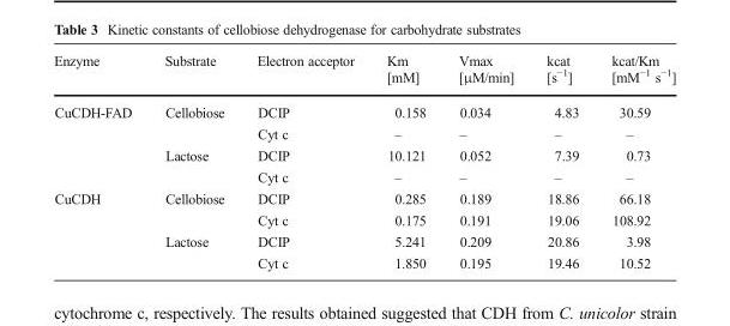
<table><thead><tr><td>Enzyme</td><td>Substrate</td><td>Electron acceptor</td><td>Km [mM]</td><td>Vmax [μM/min]</td><td>kcat [s<sup>−1</sup>]</td><td>kcat/Km [mM<sup>−1</sup> s<sup>−1</sup>]</td></tr></thead><tbody><tr><td rowspan="4">CuCDH-FAD</td><td rowspan="2">Cellobiose</td><td>DCIP</td><td>0.158</td><td>0.034</td><td>4.83</td><td>30.59</td></tr><tr><td>Cyt c</td><td>–</td><td>–</td><td>–</td><td>–</td></tr><tr><td rowspan="2">Lactose</td><td>DCIP</td><td>10.121</td><td>0.052</td><td>7.39</td><td>0.73</td></tr><tr><td>Cyt c</td><td>–</td><td>–</td><td>–</td><td>–</td></tr><tr><td rowspan="4">CuCDH</td><td rowspan="2">Cellobiose</td><td>DCIP</td><td>0.285</td><td>0.189</td><td>18.86</td><td>66.18</td></tr><tr><td>Cyt c</td><td>0.175</td><td>0.191</td><td>19.06</td><td>108.92</td></tr><tr><td rowspan="2">Lactose</td><td>DCIP</td><td>5.241</td><td>0.209</td><td>20.86</td><td>3.98</td></tr><tr><td>Cyt c</td><td>1.850</td><td>0.195</td><td>19.46</td><td>10.52</td></tr></tbody></table>